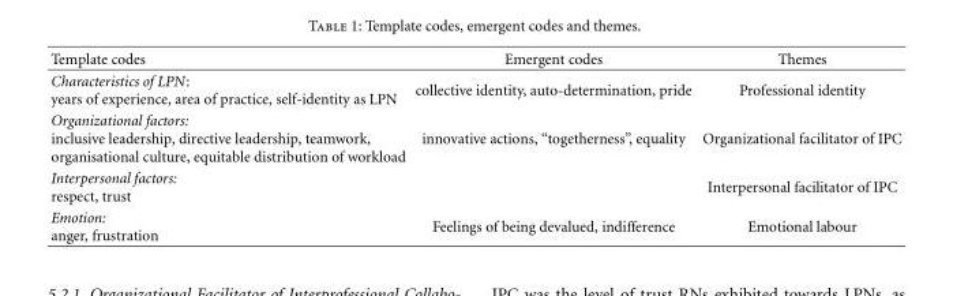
<table><thead><tr><td>Template codes</td><td>Emergent codes</td><td>Themes</td></tr></thead><tbody><tr><td>Characteristics of LPN: years of experience, area of practice, self-identity as LPN</td><td>collective identity, auto-determination, pride</td><td>Professional identity</td></tr><tr><td>Organizational factors: inclusive leadership, directive leadership, teamwork, organisational culture, equitable distribution of workload</td><td>innovative actions, “togetherness”, equality</td><td>Organizational facilitator of IPC</td></tr><tr><td>Interpersonal factors: respect, trust</td><td></td><td>Interpersonal facilitator of IPC</td></tr><tr><td>Emotion: anger, frustration</td><td>Feelings of being devalued, indifference</td><td>Emotional labour</td></tr></tbody></table>